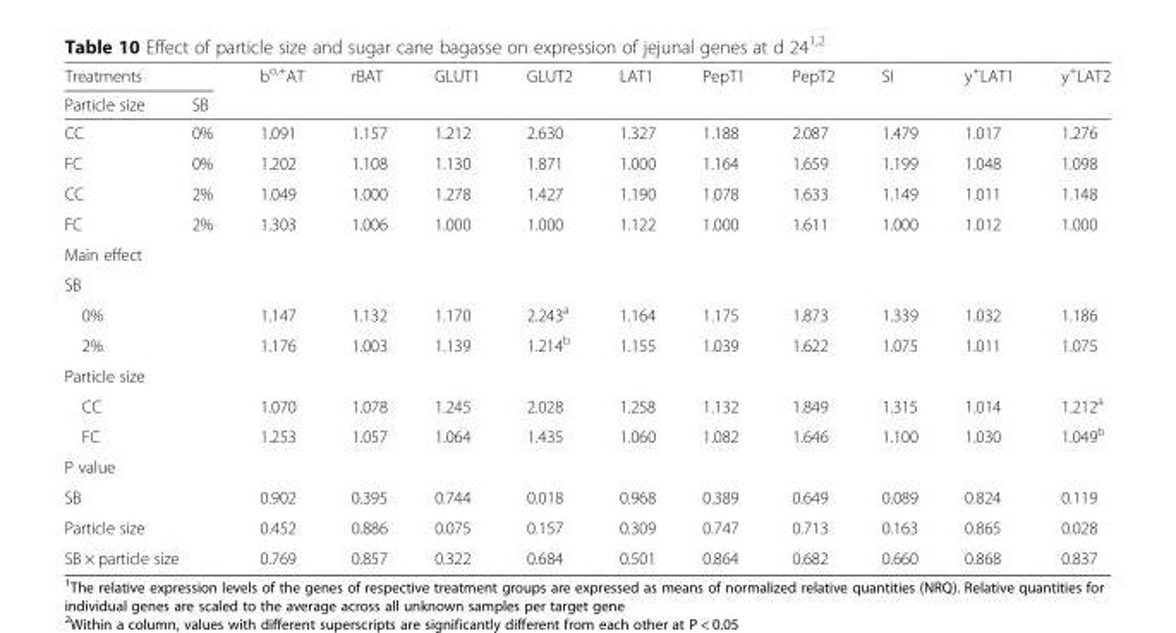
<table><thead><tr><td colspan="2">Treatments</td><td rowspan="2">b<sup>o,+</sup>AT</td><td rowspan="2">rBAT</td><td rowspan="2">GLUT1</td><td rowspan="2">GLUT2</td><td rowspan="2">LAT1</td><td rowspan="2">PepT1</td><td rowspan="2">PepT2</td><td rowspan="2">SI</td><td rowspan="2">y<sup>+</sup>LAT1</td><td rowspan="2">y<sup>+</sup>LAT2</td></tr><tr><td>Particle size</td><td>SB</td></tr></thead><tbody><tr><td>CC</td><td>0%</td><td>1.091</td><td>1.157</td><td>1.212</td><td>2.630</td><td>1.327</td><td>1.188</td><td>2.087</td><td>1.479</td><td>1.017</td><td>1.276</td></tr><tr><td>FC</td><td>0%</td><td>1.202</td><td>1.108</td><td>1.130</td><td>1.871</td><td>1.000</td><td>1.164</td><td>1.659</td><td>1.199</td><td>1.048</td><td>1.098</td></tr><tr><td>CC</td><td>2%</td><td>1.049</td><td>1.000</td><td>1.278</td><td>1.427</td><td>1.190</td><td>1.078</td><td>1.633</td><td>1.149</td><td>1.011</td><td>1.148</td></tr><tr><td>FC</td><td>2%</td><td>1.303</td><td>1.006</td><td>1.000</td><td>1.000</td><td>1.122</td><td>1.000</td><td>1.611</td><td>1.000</td><td>1.012</td><td>1.000</td></tr><tr><td colspan="12">Main effect</td></tr><tr><td colspan="12">SB</td></tr><tr><td colspan="2">0%</td><td>1.147</td><td>1.132</td><td>1.170</td><td>2.243<sup>a</sup></td><td>1.164</td><td>1.175</td><td>1.873</td><td>1.339</td><td>1.032</td><td>1.186</td></tr><tr><td colspan="2">2%</td><td>1.176</td><td>1.003</td><td>1.139</td><td>1.214<sup>b</sup></td><td>1.155</td><td>1.039</td><td>1.622</td><td>1.075</td><td>1.011</td><td>1.075</td></tr><tr><td colspan="12">Particle size</td></tr><tr><td colspan="2">CC</td><td>1.070</td><td>1.078</td><td>1.245</td><td>2.028</td><td>1.258</td><td>1.132</td><td>1.849</td><td>1.315</td><td>1.014</td><td>1.212<sup>a</sup></td></tr><tr><td colspan="2">FC</td><td>1.253</td><td>1.057</td><td>1.064</td><td>1.435</td><td>1.060</td><td>1.082</td><td>1.646</td><td>1.100</td><td>1.030</td><td>1.049<sup>b</sup></td></tr><tr><td colspan="12">P value</td></tr><tr><td colspan="2">SB</td><td>0.902</td><td>0.395</td><td>0.744</td><td>0.018</td><td>0.968</td><td>0.389</td><td>0.649</td><td>0.089</td><td>0.824</td><td>0.119</td></tr><tr><td colspan="2">Particle size</td><td>0.452</td><td>0.886</td><td>0.075</td><td>0.157</td><td>0.309</td><td>0.747</td><td>0.713</td><td>0.163</td><td>0.865</td><td>0.028</td></tr><tr><td colspan="2">SB × particle size</td><td>0.769</td><td>0.857</td><td>0.322</td><td>0.684</td><td>0.501</td><td>0.864</td><td>0.682</td><td>0.660</td><td>0.868</td><td>0.837</td></tr></tbody></table>